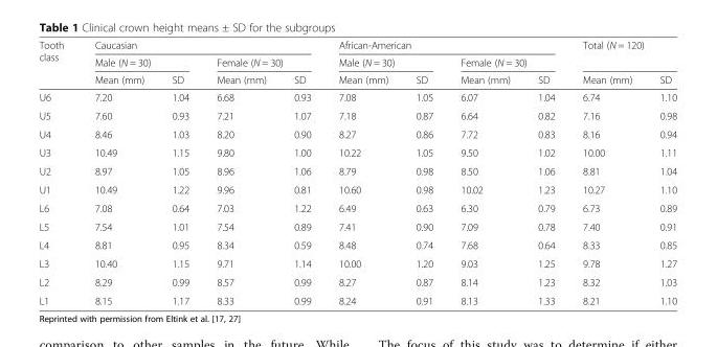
<table><thead><tr><td rowspan="3">Tooth class</td><td colspan="4">Caucasian</td><td colspan="4">African-American</td><td rowspan="2" colspan="2">Total (N = 120)</td></tr><tr><td colspan="2">Male (N = 30)</td><td colspan="2">Female (N = 30)</td><td colspan="2">Male (N = 30)</td><td colspan="2">Female (N = 30)</td></tr><tr><td>Mean (mm)</td><td>SD</td><td>Mean (mm)</td><td>SD</td><td>Mean (mm)</td><td>SD</td><td>Mean (mm)</td><td>SD</td><td>Mean (mm)</td><td>SD</td></tr></thead><tbody><tr><td>U6</td><td>7.20</td><td>1.04</td><td>6.68</td><td>0.93</td><td>7.08</td><td>1.05</td><td>6.07</td><td>1.04</td><td>6.74</td><td>1.10</td></tr><tr><td>U5</td><td>7.60</td><td>0.93</td><td>7.21</td><td>1.07</td><td>7.18</td><td>0.87</td><td>6.64</td><td>0.82</td><td>7.16</td><td>0.98</td></tr><tr><td>U4</td><td>8.46</td><td>1.03</td><td>8.20</td><td>0.90</td><td>8.27</td><td>0.86</td><td>7.72</td><td>0.83</td><td>8.16</td><td>0.94</td></tr><tr><td>U3</td><td>10.49</td><td>1.15</td><td>9.80</td><td>1.00</td><td>10.22</td><td>1.05</td><td>9.50</td><td>1.02</td><td>10.00</td><td>1.11</td></tr><tr><td>U2</td><td>8.97</td><td>1.05</td><td>8.96</td><td>1.06</td><td>8.79</td><td>0.98</td><td>8.50</td><td>1.06</td><td>8.81</td><td>1.04</td></tr><tr><td>U1</td><td>10.49</td><td>1.22</td><td>9.96</td><td>0.81</td><td>10.60</td><td>0.98</td><td>10.02</td><td>1.23</td><td>10.27</td><td>1.10</td></tr><tr><td>L6</td><td>7.08</td><td>0.64</td><td>7.03</td><td>1.22</td><td>6.49</td><td>0.63</td><td>6.30</td><td>0.79</td><td>6.73</td><td>0.89</td></tr><tr><td>L5</td><td>7.54</td><td>1.01</td><td>7.54</td><td>0.89</td><td>7.41</td><td>0.90</td><td>7.09</td><td>0.78</td><td>7.40</td><td>0.91</td></tr><tr><td>L4</td><td>8.81</td><td>0.95</td><td>8.34</td><td>0.59</td><td>8.48</td><td>0.74</td><td>7.68</td><td>0.64</td><td>8.33</td><td>0.85</td></tr><tr><td>L3</td><td>10.40</td><td>1.15</td><td>9.71</td><td>1.14</td><td>10.00</td><td>1.20</td><td>9.03</td><td>1.25</td><td>9.78</td><td>1.27</td></tr><tr><td>L2</td><td>8.29</td><td>0.99</td><td>8.57</td><td>0.99</td><td>8.27</td><td>0.87</td><td>8.14</td><td>1.23</td><td>8.32</td><td>1.03</td></tr><tr><td>L1</td><td>8.15</td><td>1.17</td><td>8.33</td><td>0.99</td><td>8.24</td><td>0.91</td><td>8.13</td><td>1.33</td><td>8.21</td><td>1.10</td></tr></tbody></table>